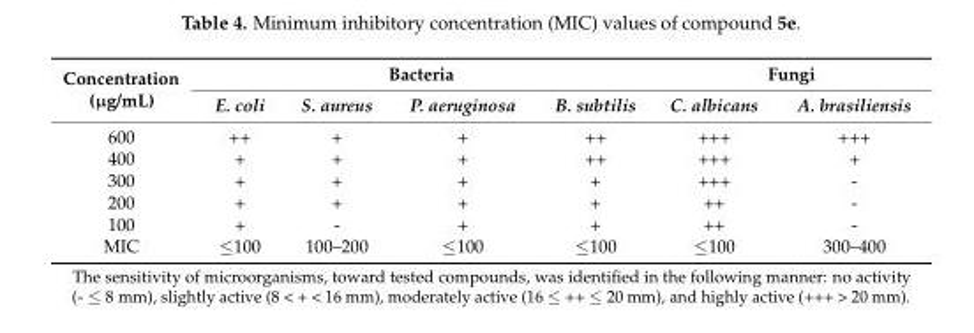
<table><thead><tr><td rowspan="2">Concentration (µg/mL)</td><td colspan="4">Bacteria</td><td colspan="2">Fungi</td></tr><tr><td>E. coli</td><td>S. aureus</td><td>P. aeruginosa</td><td>B. subtilis</td><td>C. albicans</td><td>A. brasiliensis</td></tr></thead><tbody><tr><td>600</td><td>++</td><td>+</td><td>+</td><td>++</td><td>+++</td><td>+++</td></tr><tr><td>400</td><td>+</td><td>+</td><td>+</td><td>++</td><td>+++</td><td>+</td></tr><tr><td>300</td><td>+</td><td>+</td><td>+</td><td>+</td><td>+++</td><td>-</td></tr><tr><td>200</td><td>+</td><td>+</td><td>+</td><td>+</td><td>++</td><td>-</td></tr><tr><td>100</td><td>+</td><td>-</td><td>+</td><td>+</td><td>++</td><td>-</td></tr><tr><td>MIC</td><td>≤100</td><td>100–200</td><td>≤100</td><td>≤100</td><td>≤100</td><td>300–400</td></tr></tbody></table>